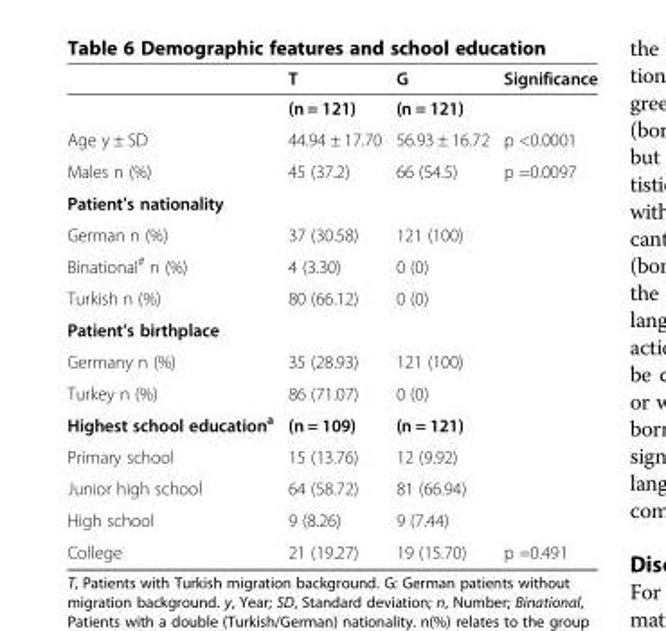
<table><thead><tr><td></td><td>T</td><td>G</td><td>Significance</td></tr></thead><tbody><tr><td></td><td>(n = 121)</td><td>(n = 121)</td><td></td></tr><tr><td>Age y ± SD</td><td>44.94 ± 17.70</td><td>56.93 ± 16.72</td><td>p &lt;0.0001</td></tr><tr><td>Males n (%)</td><td>45 (37.2)</td><td>66 (54.5)</td><td>p =0.0097</td></tr><tr><td colspan="4">Patient’s nationality</td></tr><tr><td>German n (%)</td><td>37 (30.58)</td><td>121 (100)</td><td></td></tr><tr><td>Binational<sup>#</sup> n (%)</td><td>4 (3.30)</td><td>0 (0)</td><td></td></tr><tr><td>Turkish n (%)</td><td>80 (66.12)</td><td>0 (0)</td><td></td></tr><tr><td colspan="4">Patient’s birthplace</td></tr><tr><td>Germany n (%)</td><td>35 (28.93)</td><td>121 (100)</td><td></td></tr><tr><td>Turkey n (%)</td><td>86 (71.07)</td><td>0 (0)</td><td></td></tr><tr><td>Highest school education<sup>a</sup></td><td>(n = 109)</td><td>(n = 121)</td><td></td></tr><tr><td>Primary school</td><td>15 (13.76)</td><td>12 (9.92)</td><td></td></tr><tr><td>Junior high school</td><td>64 (58.72)</td><td>81 (66.94)</td><td></td></tr><tr><td>High school</td><td>9 (8.26)</td><td>9 (7.44)</td><td></td></tr><tr><td>College</td><td>21 (19.27)</td><td>19 (15.70)</td><td>p =0.491</td></tr></tbody></table>